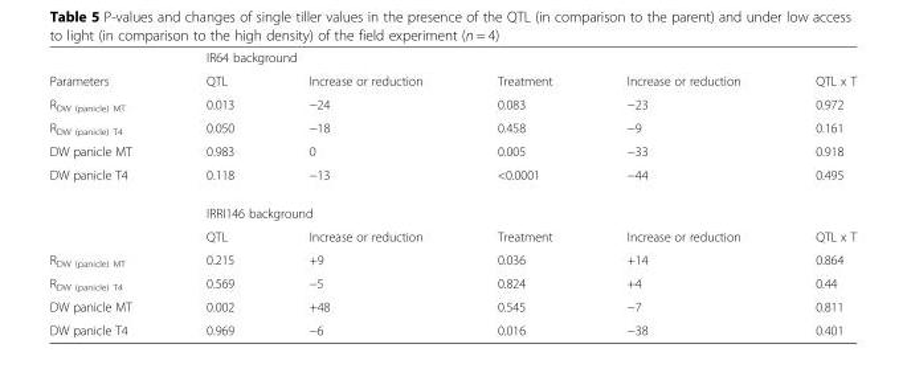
<table><thead><tr><td rowspan="2">Parameters</td><td colspan="5">IR64 background</td></tr><tr><td>QTL</td><td>Increase or reduction</td><td>Treatment</td><td>Increase or reduction</td><td>QTL x T</td></tr></thead><tbody><tr><td>R<sub>DW (panicle) MT</sub></td><td>0.013</td><td>−24</td><td>0.083</td><td>−23</td><td>0.972</td></tr><tr><td>R<sub>DW (panicle) T4</sub></td><td>0.050</td><td>−18</td><td>0.458</td><td>−9</td><td>0.161</td></tr><tr><td>DW panicle MT</td><td>0.983</td><td>0</td><td>0.005</td><td>−33</td><td>0.918</td></tr><tr><td rowspan="3">DW panicle T4</td><td>0.118</td><td>−13</td><td>&lt;0.0001</td><td>−44</td><td>0.495</td></tr><tr><td colspan="5">IRRI146 background</td></tr><tr><td>QTL</td><td>Increase or reduction</td><td>Treatment</td><td>Increase or reduction</td><td>QTL x T</td></tr><tr><td>R<sub>DW (panicle) MT</sub></td><td>0.215</td><td>+9</td><td>0.036</td><td>+14</td><td>0.864</td></tr><tr><td>R<sub>DW (panicle) T4</sub></td><td>0.569</td><td>−5</td><td>0.824</td><td>+4</td><td>0.44</td></tr><tr><td>DW panicle MT</td><td>0.002</td><td>+48</td><td>0.545</td><td>−7</td><td>0.811</td></tr><tr><td>DW panicle T4</td><td>0.969</td><td>−6</td><td>0.016</td><td>−38</td><td>0.401</td></tr></tbody></table>